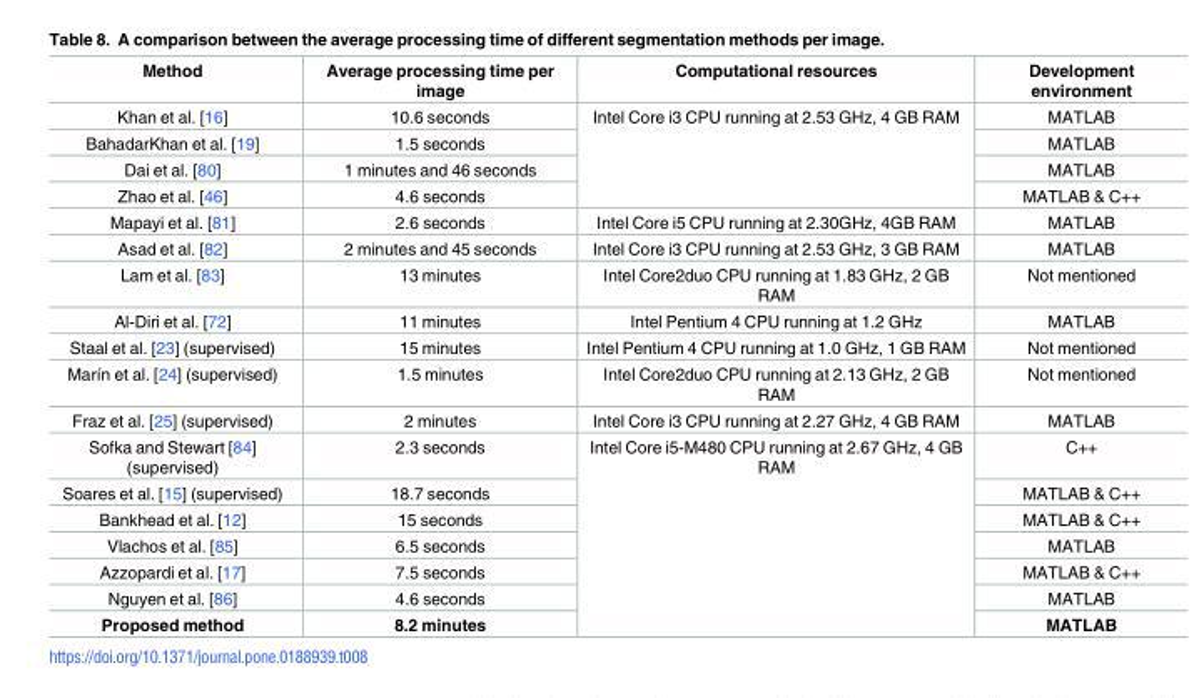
<table><thead><tr><td>Method</td><td>Average processing time per image</td><td>Computational resources</td><td>Development environment</td></tr></thead><tbody><tr><td>Khan et al. [16]</td><td>10.6 seconds</td><td rowspan="4">Intel Core i3 CPU running at 2.53 GHz, 4 GB RAM</td><td>MATLAB</td></tr><tr><td>BahadarKhan et al. [19]</td><td>1.5 seconds</td><td>MATLAB</td></tr><tr><td>Dai et al. [80]</td><td>1 minutes and 46 seconds</td><td>MATLAB</td></tr><tr><td>Zhao et al. [46]</td><td>4.6 seconds</td><td>MATLAB &amp; C++</td></tr><tr><td>Mapayi et al. [81]</td><td>2.6 seconds</td><td>Intel Core i5 CPU running at 2.30GHz, 4GB RAM</td><td>MATLAB</td></tr><tr><td>Asad et al. [82]</td><td>2 minutes and 45 seconds</td><td>Intel Core i3 CPU running at 2.53 GHz, 3 GB RAM</td><td>MATLAB</td></tr><tr><td>Lam et al. [83]</td><td>13 minutes</td><td>Intel Core2duo CPU running at 1.83 GHz, 2 GB RAM</td><td>Not mentioned</td></tr><tr><td>Al-Diri et al. [72]</td><td>11 minutes</td><td>Intel Pentium 4 CPU running at 1.2 GHz</td><td>MATLAB</td></tr><tr><td>Staal et al. [23] (supervised)</td><td>15 minutes</td><td>Intel Pentium 4 CPU running at 1.0 GHz, 1 GB RAM</td><td>Not mentioned</td></tr><tr><td>Marı´n et al. [24] (supervised)</td><td>1.5 minutes</td><td>Intel Core2duo CPU running at 2.13 GHz, 2 GB RAM</td><td>Not mentioned</td></tr><tr><td>Fraz et al. [25] (supervised)</td><td>2 minutes</td><td>Intel Core i3 CPU running at 2.27 GHz, 4 GB RAM</td><td>MATLAB</td></tr><tr><td>Sofka and Stewart [84] (supervised)</td><td>2.3 seconds</td><td rowspan="7">Intel Core i5-M480 CPU running at 2.67 GHz, 4 GB RAM</td><td>C++</td></tr><tr><td>Soares et al. [15] (supervised)</td><td>18.7 seconds</td><td>MATLAB &amp; C++</td></tr><tr><td>Bankhead et al. [12]</td><td>15 seconds</td><td>MATLAB &amp; C++</td></tr><tr><td>Vlachos et al. [85]</td><td>6.5 seconds</td><td>MATLAB</td></tr><tr><td>Azzopardi et al. [17]</td><td>7.5 seconds</td><td>MATLAB &amp; C++</td></tr><tr><td>Nguyen et al. [86]</td><td>4.6 seconds</td><td>MATLAB</td></tr><tr><td>Proposed method</td><td>8.2 minutes</td><td>MATLAB</td></tr></tbody></table>